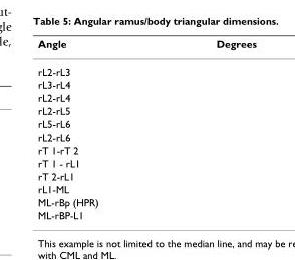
<table><thead><tr><td>Angle</td><td>Degrees</td></tr></thead><tbody><tr><td colspan="2">rL2-rL3</td></tr><tr><td colspan="2">rL3-rL4</td></tr><tr><td colspan="2">rL2-rL4</td></tr><tr><td colspan="2">rL2-rL5</td></tr><tr><td colspan="2">rL5-rL6</td></tr><tr><td colspan="2">rL2-rL6</td></tr><tr><td colspan="2">rT 1-rT 2</td></tr><tr><td colspan="2">rT 1 - rL1</td></tr><tr><td colspan="2">rT 2-rL1</td></tr><tr><td colspan="2">rL1-ML</td></tr><tr><td colspan="2">ML-rBp (HPR)</td></tr><tr><td>ML-rBP-L1</td><td></td></tr></tbody></table>